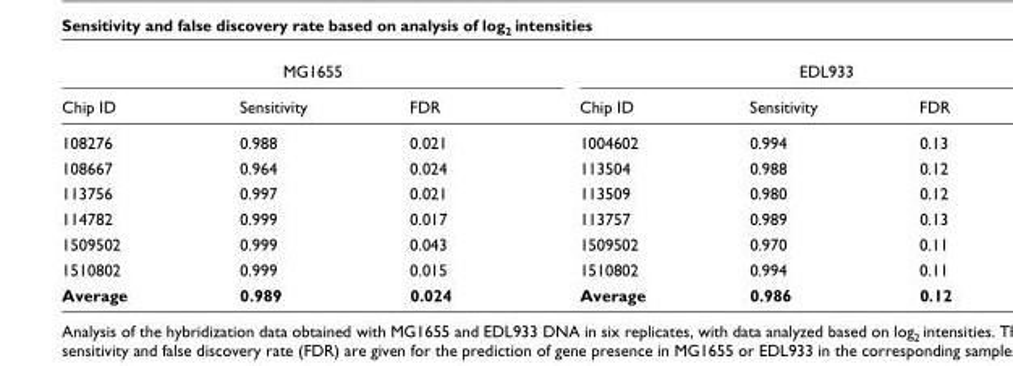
<table><thead><tr><td colspan="3">MG1655</td><td colspan="3">EDL933</td></tr><tr><td>Chip ID</td><td>Sensitivity</td><td>FDR</td><td>Chip ID</td><td>Sensitivity</td><td>FDR</td></tr></thead><tbody><tr><td>108276</td><td>0.988</td><td>0.021</td><td>1004602</td><td>0.994</td><td>0.13</td></tr><tr><td>108667</td><td>0.964</td><td>0.024</td><td>113504</td><td>0.988</td><td>0.12</td></tr><tr><td>113756</td><td>0.997</td><td>0.021</td><td>113509</td><td>0.980</td><td>0.12</td></tr><tr><td>114782</td><td>0.999</td><td>0.017</td><td>113757</td><td>0.989</td><td>0.13</td></tr><tr><td>1509502</td><td>0.999</td><td>0.043</td><td>1509502</td><td>0.970</td><td>0.11</td></tr><tr><td>1510802</td><td>0.999</td><td>0.015</td><td>1510802</td><td>0.994</td><td>0.11</td></tr><tr><td>Average</td><td>0.989</td><td>0.024</td><td>Average</td><td>0.986</td><td>0.12</td></tr></tbody></table>